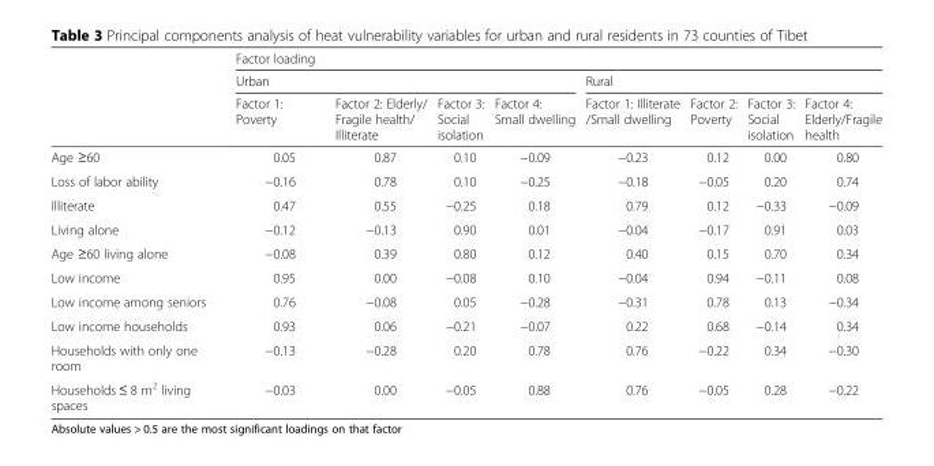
<table><thead><tr><td rowspan="3"></td><td colspan="8">Factor loading</td></tr><tr><td colspan="4">Urban</td><td colspan="4">Rural</td></tr><tr><td>Factor 1: Poverty</td><td>Factor 2: Elderly/ Fragile health/ Illiterate</td><td>Factor 3: Social isolation</td><td>Factor 4: Small dwelling</td><td>Factor 1: Illiterate /Small dwelling</td><td>Factor 2: Poverty</td><td>Factor 3: Social isolation</td><td>Factor 4: Elderly/Fragile health</td></tr></thead><tbody><tr><td>Age ≥60</td><td>0.05</td><td>0.87</td><td>0.10</td><td>−0.09</td><td>−0.23</td><td>0.12</td><td>0.00</td><td>0.80</td></tr><tr><td>Loss of labor ability</td><td>−0.16</td><td>0.78</td><td>0.10</td><td>−0.25</td><td>−0.18</td><td>−0.05</td><td>0.20</td><td>0.74</td></tr><tr><td>Illiterate</td><td>0.47</td><td>0.55</td><td>−0.25</td><td>0.18</td><td>0.79</td><td>0.12</td><td>−0.33</td><td>−0.09</td></tr><tr><td>Living alone</td><td>−0.12</td><td>−0.13</td><td>0.90</td><td>0.01</td><td>−0.04</td><td>−0.17</td><td>0.91</td><td>0.03</td></tr><tr><td>Age ≥60 living alone</td><td>−0.08</td><td>0.39</td><td>0.80</td><td>0.12</td><td>0.40</td><td>0.15</td><td>0.70</td><td>0.34</td></tr><tr><td>Low income</td><td>0.95</td><td>0.00</td><td>−0.08</td><td>0.10</td><td>−0.04</td><td>0.94</td><td>−0.11</td><td>0.08</td></tr><tr><td>Low income among seniors</td><td>0.76</td><td>−0.08</td><td>0.05</td><td>−0.28</td><td>−0.31</td><td>0.78</td><td>0.13</td><td>−0.34</td></tr><tr><td>Low income households</td><td>0.93</td><td>0.06</td><td>−0.21</td><td>−0.07</td><td>0.22</td><td>0.68</td><td>−0.14</td><td>0.34</td></tr><tr><td>Households with only one room</td><td>−0.13</td><td>−0.28</td><td>0.20</td><td>0.78</td><td>0.76</td><td>−0.22</td><td>0.34</td><td>−0.30</td></tr><tr><td>Households ≤ 8 m<sup>2</sup> living spaces</td><td>−0.03</td><td>0.00</td><td>−0.05</td><td>0.88</td><td>0.76</td><td>−0.05</td><td>0.28</td><td>−0.22</td></tr></tbody></table>